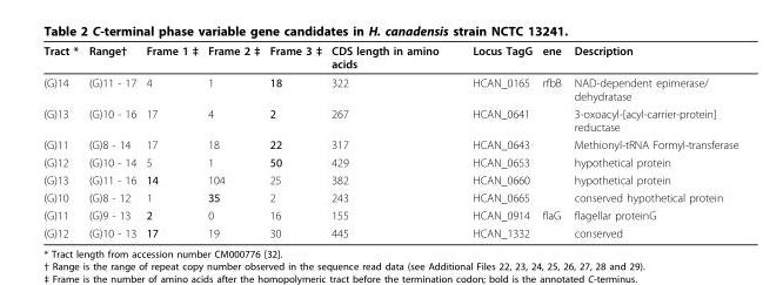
<table><thead><tr><td>Tract *</td><td>Range†</td><td>Frame 1 ‡</td><td>Frame 2 ‡</td><td>Frame 3 ‡</td><td>CDS length in amino acids</td><td>Locus TagG</td><td>ene</td><td>Description</td></tr></thead><tbody><tr><td>(G)14</td><td>(G)11 - 17</td><td>4</td><td>1</td><td>18</td><td>322</td><td>HCAN_0165</td><td>rfbB</td><td>NAD-dependent epimerase/ dehydratase</td></tr><tr><td>(G)13</td><td>(G)10 - 16</td><td>17</td><td>4</td><td>2</td><td>267</td><td>HCAN_0641</td><td></td><td>3-oxoacyl-[acyl-carrier-protein] reductase</td></tr><tr><td>(G)11</td><td>(G)8 - 14</td><td>17</td><td>18</td><td>22</td><td>317</td><td>HCAN_0643</td><td></td><td>Methionyl-tRNA Formyl-transferase</td></tr><tr><td>(G)12</td><td>(G)10 - 14</td><td>5</td><td>1</td><td>50</td><td>429</td><td>HCAN_0653</td><td></td><td>hypothetical protein</td></tr><tr><td>(G)13</td><td>(G)11 - 16</td><td>14</td><td>104</td><td>25</td><td>382</td><td>HCAN_0660</td><td></td><td>hypothetical protein</td></tr><tr><td>(G)10</td><td>(G)8 - 12</td><td>1</td><td>35</td><td>2</td><td>243</td><td>HCAN_0665</td><td></td><td>conserved hypothetical protein</td></tr><tr><td>(G)11</td><td>(G)9 - 13</td><td>2</td><td>0</td><td>16</td><td>155</td><td>HCAN_0914</td><td>flaG</td><td>flagellar proteinG</td></tr><tr><td>(G)12</td><td>(G)10 - 13</td><td>17</td><td>19</td><td>30</td><td>445</td><td>HCAN_1332</td><td></td><td>conserved</td></tr></tbody></table>